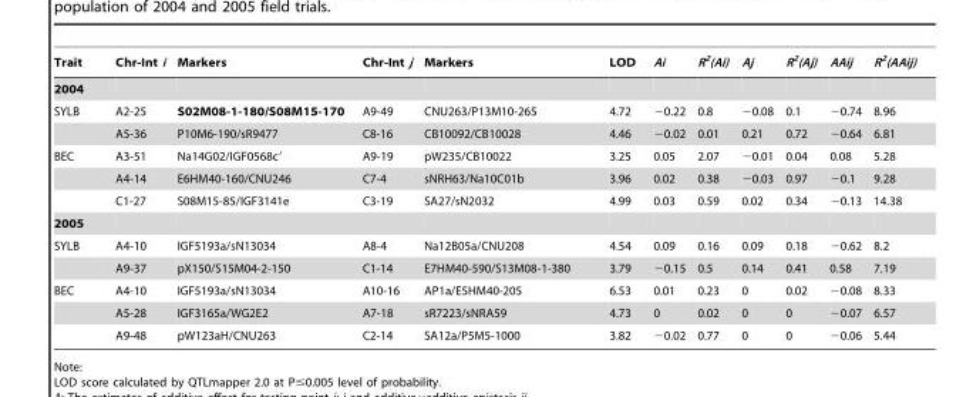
<table><thead><tr><td>Trait</td><td>Chr-Int i</td><td>Markers</td><td>Chr-Int j</td><td>Markers</td><td>LOD</td><td>Ai</td><td>R<sup>2</sup>(Ai)</td><td>Aj</td><td>R<sup>2</sup>(Aj)</td><td>AAij</td><td>R<sup>2</sup>(AAij)</td></tr></thead><tbody><tr><td colspan="12">2004</td></tr><tr><td rowspan="2">SYLB</td><td>A2-25</td><td>S02M08-1-180/S08M15-170</td><td>A9-49</td><td>CNU263/P13M10-265</td><td>4.72</td><td>−0.22</td><td>0.8</td><td>−0.08</td><td>0.1</td><td>−0.74</td><td>8.96</td></tr><tr><td>A5-36</td><td>P10M6-190/sR9477</td><td>C8-16</td><td>CB10092/CB10028</td><td>4.46</td><td>−0.02</td><td>0.01</td><td>0.21</td><td>0.72</td><td>−0.64</td><td>6.81</td></tr><tr><td rowspan="3">BEC</td><td>A3-51</td><td>Na14G02/IGF0568c′</td><td>A9-19</td><td>pW235/CB10022</td><td>3.25</td><td>0.05</td><td>2.07</td><td>−0.01</td><td>0.04</td><td>0.08</td><td>5.28</td></tr><tr><td>A4-14</td><td>E6HM40-160/CNU246</td><td>C7-4</td><td>sNRH63/Na10C01b</td><td>3.96</td><td>0.02</td><td>0.38</td><td>−0.03</td><td>0.97</td><td>−0.1</td><td>9.28</td></tr><tr><td>C1-27</td><td>S08M15-85/IGF3141e</td><td>C3-19</td><td>SA27/sN2032</td><td>4.99</td><td>0.03</td><td>0.59</td><td>0.02</td><td>0.34</td><td>−0.13</td><td>14.38</td></tr><tr><td colspan="12">2005</td></tr><tr><td rowspan="2">SYLB</td><td>A4-10</td><td>IGF5193a/sN13034</td><td>A8-4</td><td>Na12B05a/CNU208</td><td>4.54</td><td>0.09</td><td>0.16</td><td>0.09</td><td>0.18</td><td>−0.62</td><td>8.2</td></tr><tr><td>A9-37</td><td>pX150/S15M04-2-150</td><td>C1-14</td><td>E7HM40-590/S13M08-1-380</td><td>3.79</td><td>−0.15</td><td>0.5</td><td>0.14</td><td>0.41</td><td>0.58</td><td>7.19</td></tr><tr><td rowspan="3">BEC</td><td>A4-10</td><td>IGF5193a/sN13034</td><td>A10-16</td><td>AP1a/E5HM40-205</td><td>6.53</td><td>0.01</td><td>0.23</td><td>0</td><td>0.02</td><td>−0.08</td><td>8.33</td></tr><tr><td>A5-28</td><td>IGF3165a/WG2E2</td><td>A7-18</td><td>sR7223/sNRA59</td><td>4.73</td><td>0</td><td>0.02</td><td>0</td><td>0</td><td>−0.07</td><td>6.57</td></tr><tr><td>A9-48</td><td>pW123aH/CNU263</td><td>C2-14</td><td>SA12a/P5M5-1000</td><td>3.82</td><td>−0.02</td><td>0.77</td><td>0</td><td>0</td><td>−0.06</td><td>5.44</td></tr></tbody></table>